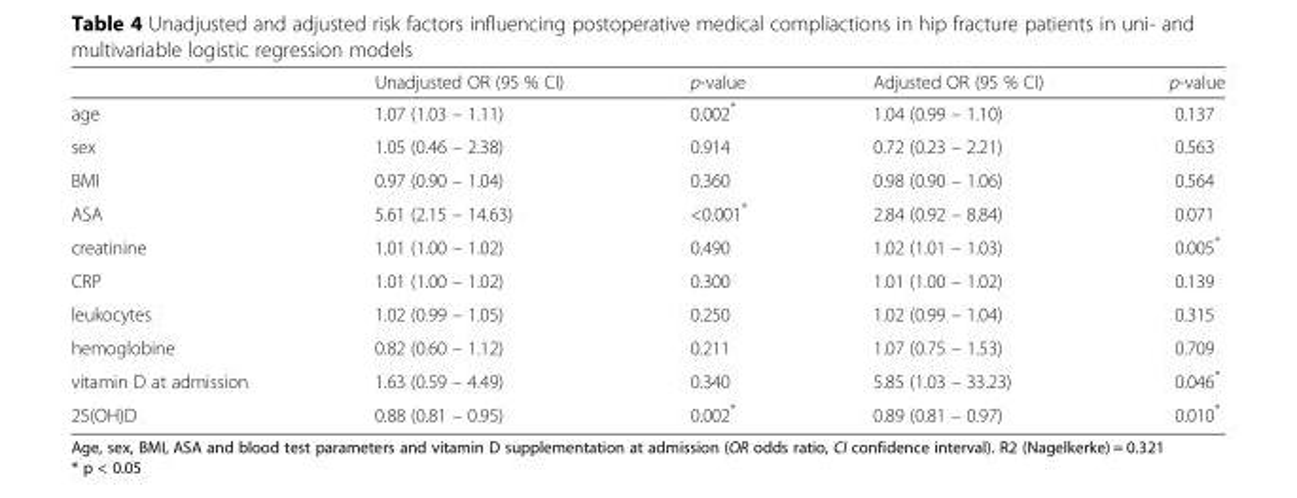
<table><thead><tr><td></td><td>Unadjusted OR (95 % CI)</td><td>p-value</td><td>Adjusted OR (95 % CI)</td><td>p-value</td></tr></thead><tbody><tr><td>age</td><td>1.07 (1.03 – 1.11)</td><td>0.002*</td><td>1.04 (0.99 – 1.10)</td><td>0.137</td></tr><tr><td>sex</td><td>1.05 (0.46 – 2.38)</td><td>0.914</td><td>0.72 (0.23 – 2.21)</td><td>0.563</td></tr><tr><td>BMI</td><td>0.97 (0.90 – 1.04)</td><td>0.360</td><td>0.98 (0.90 – 1.06)</td><td>0.564</td></tr><tr><td>ASA</td><td>5.61 (2.15 – 14.63)</td><td>&lt;0.001*</td><td>2.84 (0.92 – 8.84)</td><td>0.071</td></tr><tr><td>creatinine</td><td>1.01 (1.00 – 1.02)</td><td>0.490</td><td>1.02 (1.01 – 1.03)</td><td>0.005*</td></tr><tr><td>CRP</td><td>1.01 (1.00 – 1.02)</td><td>0.300</td><td>1.01 (1.00 – 1.02)</td><td>0.139</td></tr><tr><td>leukocytes</td><td>1.02 (0.99 – 1.05)</td><td>0.250</td><td>1.02 (0.99 – 1.04)</td><td>0.315</td></tr><tr><td>hemoglobine</td><td>0.82 (0.60 – 1.12)</td><td>0.211</td><td>1.07 (0.75 – 1.53)</td><td>0.709</td></tr><tr><td>vitamin D at admission</td><td>1.63 (0.59 – 4.49)</td><td>0.340</td><td>5.85 (1.03 – 33.23)</td><td>0.046*</td></tr><tr><td>25(OH)D</td><td>0.88 (0.81 – 0.95)</td><td>0.002*</td><td>0.89 (0.81 – 0.97)</td><td>0.010*</td></tr></tbody></table>